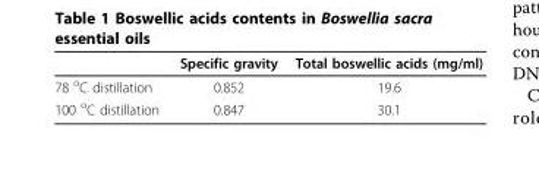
<table><thead><tr><td></td><td>Specific gravity</td><td>Total boswellic acids (mg/ml)</td></tr></thead><tbody><tr><td>78 <sup>o</sup>C distillation</td><td>0.852</td><td>19.6</td></tr><tr><td>100 <sup>o</sup>C distillation</td><td>0.847</td><td>30.1</td></tr></tbody></table>